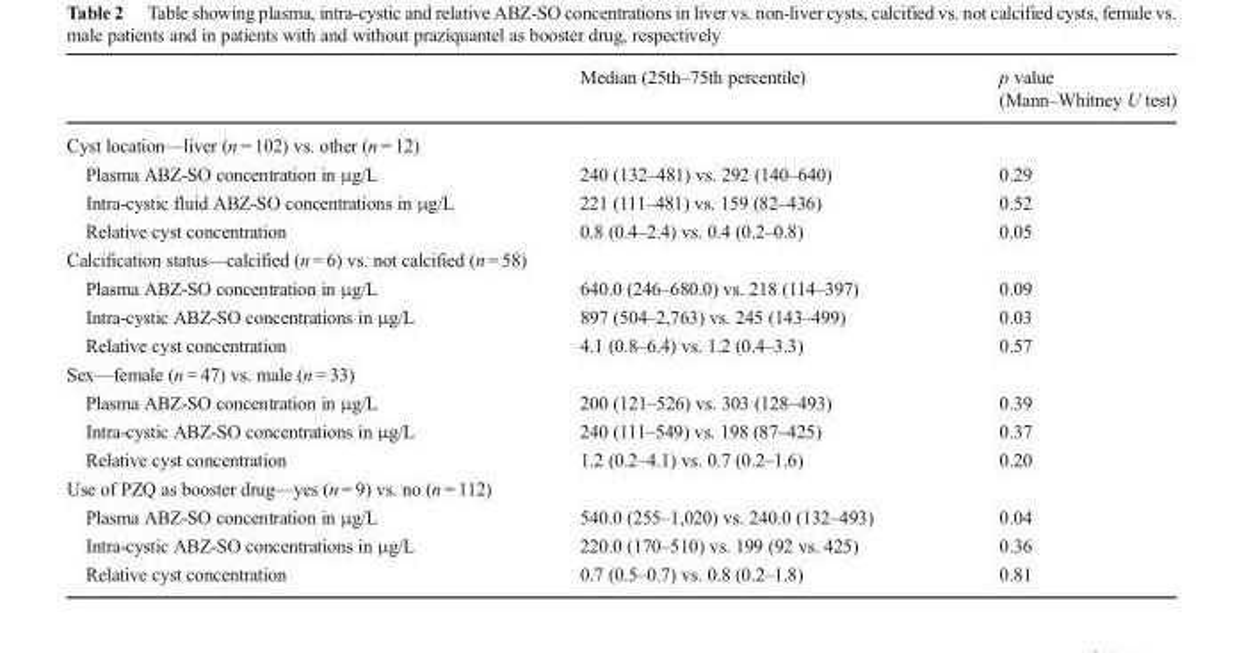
<table><thead><tr><td></td><td>Median (25th–75th percentile)</td><td>p value (Mann–Whitney U test)</td></tr></thead><tbody><tr><td colspan="3">Cyst location—liver (n = 102) vs. other (n = 12)</td></tr><tr><td>Plasma ABZ-SO concentration in μg/L</td><td>240 (132–481) vs. 292 (140–640)</td><td>0.29</td></tr><tr><td>Intra-cystic fluid ABZ-SO concentrations in μg/L</td><td>221 (111–481) vs. 159 (82–436)</td><td>0.52</td></tr><tr><td>Relative cyst concentration</td><td>0.8 (0.4–2.4) vs. 0.4 (0.2–0.8)</td><td>0.05</td></tr><tr><td colspan="3">Calcification status—calcified (n = 6) vs. not calcified (n = 58)</td></tr><tr><td>Plasma ABZ-SO concentration in μg/L</td><td>640.0 (246–680.0) vs. 218 (114–397)</td><td>0.09</td></tr><tr><td>Intra-cystic ABZ-SO concentrations in μg/L</td><td>897 (504–2,763) vs. 245 (143–499)</td><td>0.03</td></tr><tr><td>Relative cyst concentration</td><td>4.1 (0.8–6.4) vs. 1.2 (0.4–3.3)</td><td>0.57</td></tr><tr><td colspan="3">Sex—female (n = 47) vs. male (n = 33)</td></tr><tr><td>Plasma ABZ-SO concentration in μg/L</td><td>200 (121–526) vs. 303 (128–493)</td><td>0.39</td></tr><tr><td>Intra-cystic ABZ-SO concentrations in μg/L</td><td>240 (111–549) vs. 198 (87–425)</td><td>0.37</td></tr><tr><td>Relative cyst concentration</td><td>1.2 (0.2–4.1) vs. 0.7 (0.2–1.6)</td><td>0.20</td></tr><tr><td colspan="3">Use of PZQ as booster drug—yes (n = 9) vs. no (n = 112)</td></tr><tr><td>Plasma ABZ-SO concentration in μg/L</td><td>540.0 (255–1,020) vs. 240.0 (132–493)</td><td>0.04</td></tr><tr><td>Intra-cystic ABZ-SO concentrations in μg/L</td><td>220.0 (170–510) vs. 199 (92 vs. 425)</td><td>0.36</td></tr><tr><td>Relative cyst concentration</td><td>0.7 (0.5–0.7) vs. 0.8 (0.2–1.8)</td><td>0.81</td></tr></tbody></table>